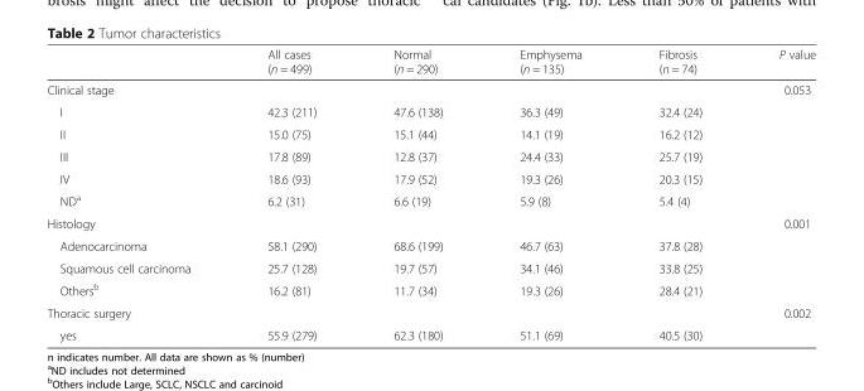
<table><thead><tr><td></td><td>All cases (n = 499)</td><td>Normal (n = 290)</td><td>Emphysema (n = 135)</td><td>Fibrosis (n = 74)</td><td>P value</td></tr></thead><tbody><tr><td>Clinical stage</td><td></td><td></td><td></td><td></td><td>0.053</td></tr><tr><td>I</td><td>42.3 (211)</td><td>47.6 (138)</td><td>36.3 (49)</td><td>32.4 (24)</td><td></td></tr><tr><td>II</td><td>15.0 (75)</td><td>15.1 (44)</td><td>14.1 (19)</td><td>16.2 (12)</td><td></td></tr><tr><td>III</td><td>17.8 (89)</td><td>12.8 (37)</td><td>24.4 (33)</td><td>25.7 (19)</td><td></td></tr><tr><td>IV</td><td>18.6 (93)</td><td>17.9 (52)</td><td>19.3 (26)</td><td>20.3 (15)</td><td></td></tr><tr><td>ND<sup>a</sup></td><td>6.2 (31)</td><td>6.6 (19)</td><td>5.9 (8)</td><td>5.4 (4)</td><td></td></tr><tr><td>Histology</td><td></td><td></td><td></td><td></td><td>0.001</td></tr><tr><td>Adenocarcinoma</td><td>58.1 (290)</td><td>68.6 (199)</td><td>46.7 (63)</td><td>37.8 (28)</td><td></td></tr><tr><td>Squamous cell carcinoma</td><td>25.7 (128)</td><td>19.7 (57)</td><td>34.1 (46)</td><td>33.8 (25)</td><td></td></tr><tr><td>Others<sup>b</sup></td><td>16.2 (81)</td><td>11.7 (34)</td><td>19.3 (26)</td><td>28.4 (21)</td><td></td></tr><tr><td>Thoracic surgery</td><td></td><td></td><td></td><td></td><td>0.002</td></tr><tr><td>yes</td><td>55.9 (279)</td><td>62.3 (180)</td><td>51.1 (69)</td><td>40.5 (30)</td><td></td></tr></tbody></table>